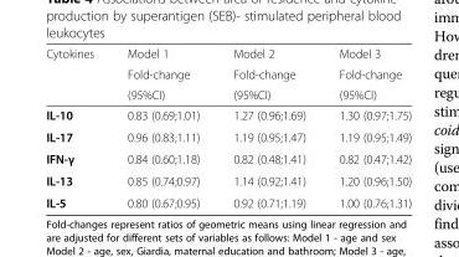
<table><thead><tr><td rowspan="3">Cytokines</td><td rowspan="3">Model 1 Fold-change (95%CI)</td><td rowspan="3">Model 2 Fold-change (95%CI)</td><td rowspan="3">Model 3 Fold-change (95%CI)</td></tr><tr></tr><tr></tr></thead><tbody><tr><td>IL-10</td><td>0.83 (0.69;1.01)</td><td>1.27 (0.96;1.69)</td><td>1.30 (0.97;1.75)</td></tr><tr><td>IL-17</td><td>0.96 (0.83;1.11)</td><td>1.19 (0.95;1.47)</td><td>1.19 (0.95;1.49)</td></tr><tr><td>IFN-γ</td><td>0.84 (0.60;1.18)</td><td>0.82 (0.48;1.41)</td><td>0.82 (0.47;1.42)</td></tr><tr><td>IL-13</td><td>0.85 (0.74;0.97)</td><td>1.14 (0.92;1.41)</td><td>1.20 (0.96;1.50)</td></tr><tr><td>IL-5</td><td>0.80 (0.67;0.95)</td><td>0.92 (0.71;1.19)</td><td>1.00 (0.76;1.31)</td></tr></tbody></table>